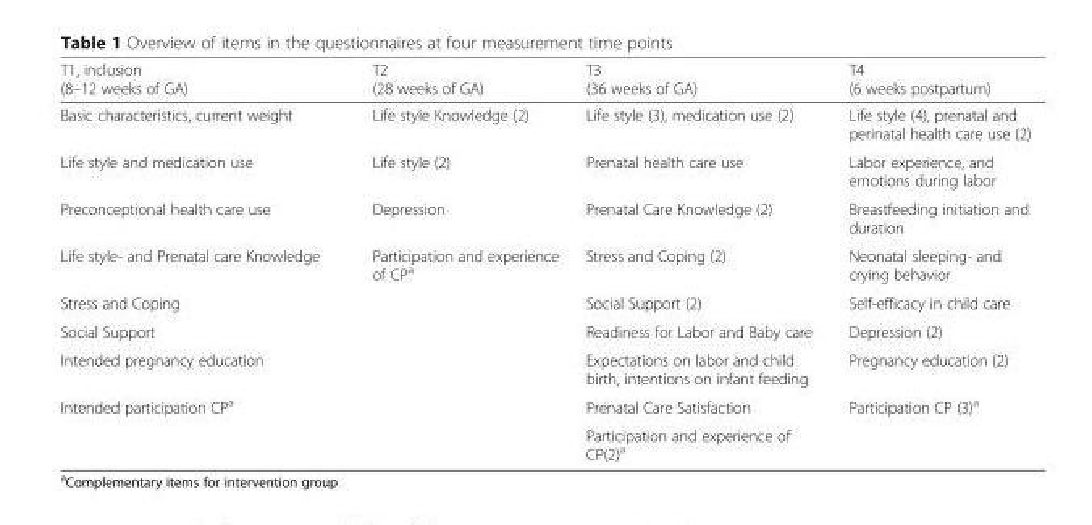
<table><thead><tr><td>T1, inclusion (8–12 weeks of GA)</td><td>T2 (28 weeks of GA)</td><td>T3 (36 weeks of GA)</td><td>T4 (6 weeks postpartum)</td></tr></thead><tbody><tr><td>Basic characteristics, current weight</td><td>Life style Knowledge (2)</td><td>Life style (3), medication use (2)</td><td>Life style (4), prenatal and perinatal health care use (2)</td></tr><tr><td>Life style and medication use</td><td>Life style (2)</td><td>Prenatal health care use</td><td>Labor experience, and emotions during labor</td></tr><tr><td>Preconceptional health care use</td><td>Depression</td><td>Prenatal Care Knowledge (2)</td><td>Breastfeeding initiation and duration</td></tr><tr><td>Life style- and Prenatal care Knowledge</td><td>Participation and experience of CP<sup>a</sup></td><td>Stress and Coping (2)</td><td>Neonatal sleeping- and crying behavior</td></tr><tr><td>Stress and Coping</td><td></td><td>Social Support (2)</td><td>Self-efficacy in child care</td></tr><tr><td>Social Support</td><td></td><td>Readiness for Labor and Baby care</td><td>Depression (2)</td></tr><tr><td>Intended pregnancy education</td><td></td><td>Expectations on labor and child birth, intentions on infant feeding</td><td>Pregnancy education (2)</td></tr><tr><td rowspan="2">Intended participation CP<sup>a</sup></td><td></td><td>Prenatal Care Satisfaction</td><td>Participation CP (3)<sup>a</sup></td></tr><tr><td></td><td>Participation and experience of CP(2)<sup>a</sup></td><td></td></tr></tbody></table>